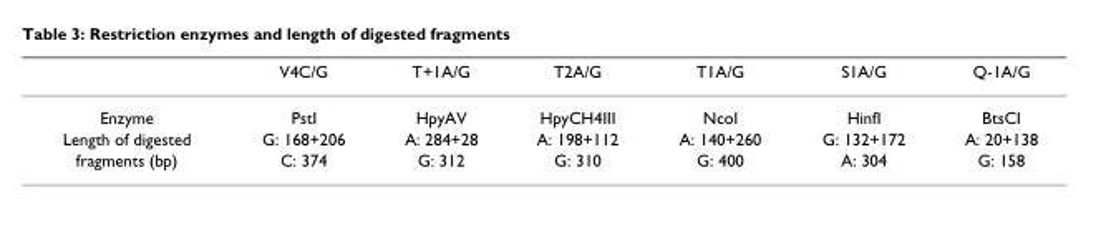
<table><thead><tr><td></td><td>V4C/G</td><td>T+1A/G</td><td>T2A/G</td><td>T1A/G</td><td>S1A/G</td><td>Q-1A/G</td></tr></thead><tbody><tr><td>Enzyme</td><td>PstI</td><td>HpyAV</td><td>HpyCH4III</td><td>NcoI</td><td>HinfI</td><td>BtsCI</td></tr><tr><td>Length of digested</td><td>G: 168+206</td><td>A: 284+28</td><td>A: 198+112</td><td>A: 140+260</td><td>G: 132+172</td><td>A: 20+138</td></tr><tr><td>fragments (bp)</td><td>C: 374</td><td>G: 312</td><td>G: 310</td><td>G: 400</td><td>A: 304</td><td>G: 158</td></tr></tbody></table>